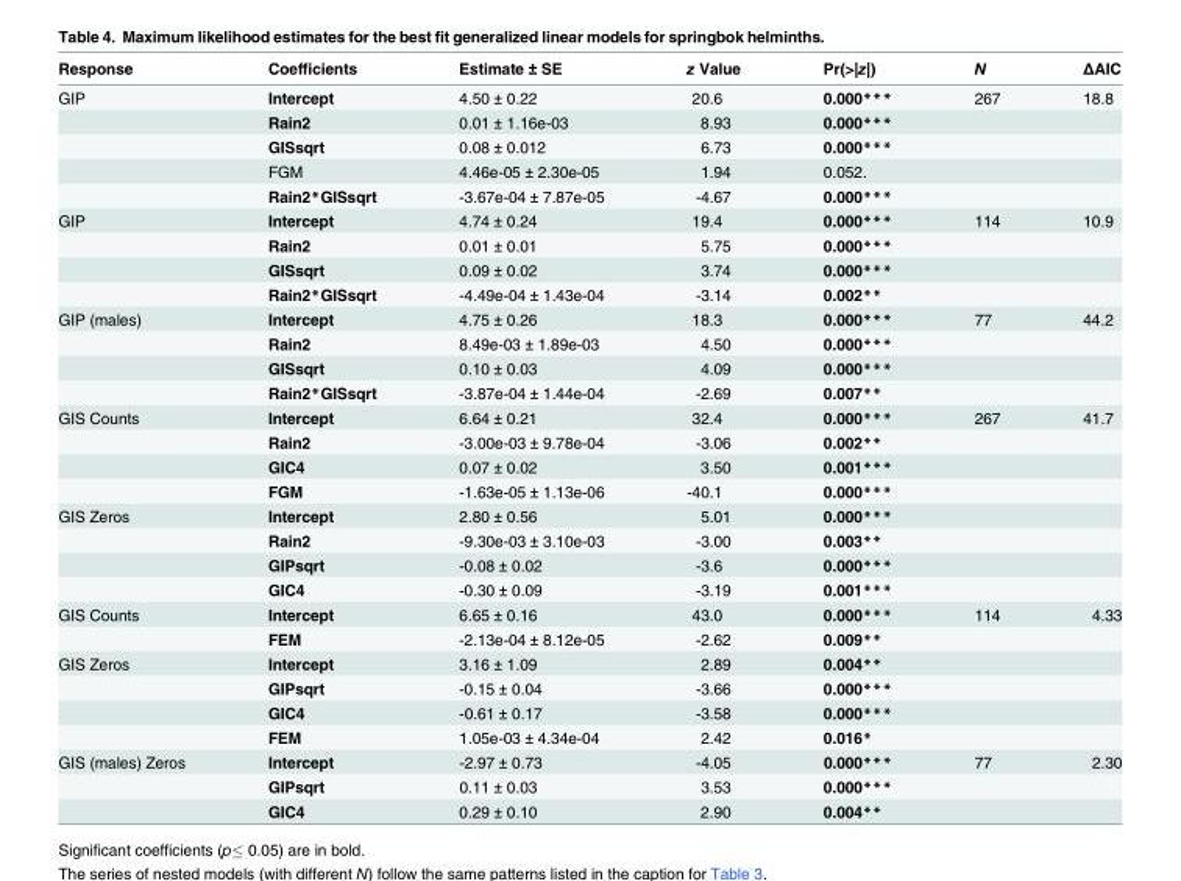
<table><thead><tr><td>Response</td><td>Coefficients</td><td>Estimate ± SE</td><td>z Value</td><td>Pr(&gt;|z|)</td><td>N</td><td>ΔAIC</td></tr></thead><tbody><tr><td rowspan="5">GIP</td><td>Intercept</td><td>4.50 ± 0.22</td><td>20.6</td><td>0.000***</td><td>267</td><td>18.8</td></tr><tr><td>Rain2</td><td>0.01 ± 1.16e-03</td><td>8.93</td><td>0.000***</td><td></td><td></td></tr><tr><td>GISsqrt</td><td>0.08 ± 0.012</td><td>6.73</td><td>0.000***</td><td></td><td></td></tr><tr><td>FGM</td><td>4.46e-05 ± 2.30e-05</td><td>1.94</td><td>0.052.</td><td></td><td></td></tr><tr><td>Rain2*GISsqrt</td><td>-3.67e-04 ± 7.87e-05</td><td>-4.67</td><td>0.000***</td><td></td><td></td></tr><tr><td rowspan="4">GIP</td><td>Intercept</td><td>4.74 ± 0.24</td><td>19.4</td><td>0.000***</td><td>114</td><td>10.9</td></tr><tr><td>Rain2</td><td>0.01 ± 0.01</td><td>5.75</td><td>0.000***</td><td></td><td></td></tr><tr><td>GISsqrt</td><td>0.09 ± 0.02</td><td>3.74</td><td>0.000***</td><td></td><td></td></tr><tr><td>Rain2*GISsqrt</td><td>-4.49e-04 ± 1.43e-04</td><td>-3.14</td><td>0.002**</td><td></td><td></td></tr><tr><td rowspan="4">GIP (males)</td><td>Intercept</td><td>4.75 ± 0.26</td><td>18.3</td><td>0.000***</td><td>77</td><td>44.2</td></tr><tr><td>Rain2</td><td>8.49e-03 ± 1.89e-03</td><td>4.50</td><td>0.000***</td><td></td><td></td></tr><tr><td>GISsqrt</td><td>0.10 ± 0.03</td><td>4.09</td><td>0.000***</td><td></td><td></td></tr><tr><td>Rain2*GISsqrt</td><td>-3.87e-04 ± 1.44e-04</td><td>-2.69</td><td>0.007**</td><td></td><td></td></tr><tr><td rowspan="4">GIS Counts</td><td>Intercept</td><td>6.64 ± 0.21</td><td>32.4</td><td>0.000***</td><td>267</td><td>41.7</td></tr><tr><td>Rain2</td><td>-3.00e-03 ± 9.78e-04</td><td>-3.06</td><td>0.002**</td><td></td><td></td></tr><tr><td>GIC4</td><td>0.07 ± 0.02</td><td>3.50</td><td>0.001***</td><td></td><td></td></tr><tr><td>FGM</td><td>-1.63e-05 ± 1.13e-06</td><td>-40.1</td><td>0.000***</td><td></td><td></td></tr><tr><td rowspan="4">GIS Zeros</td><td>Intercept</td><td>2.80 ± 0.56</td><td>5.01</td><td>0.000***</td><td></td><td></td></tr><tr><td>Rain2</td><td>-9.30e-03 ± 3.10e-03</td><td>-3.00</td><td>0.003**</td><td></td><td></td></tr><tr><td>GIPsqrt</td><td>-0.08 ± 0.02</td><td>-3.6</td><td>0.000***</td><td></td><td></td></tr><tr><td>GIC4</td><td>-0.30 ± 0.09</td><td>-3.19</td><td>0.001***</td><td></td><td></td></tr><tr><td rowspan="2">GIS Counts</td><td>Intercept</td><td>6.65 ± 0.16</td><td>43.0</td><td>0.000***</td><td>114</td><td>4.33</td></tr><tr><td>FEM</td><td>-2.13e-04 ± 8.12e-05</td><td>-2.62</td><td>0.009**</td><td></td><td></td></tr><tr><td rowspan="4">GIS Zeros</td><td>Intercept</td><td>3.16 ± 1.09</td><td>2.89</td><td>0.004**</td><td></td><td></td></tr><tr><td>GIPsqrt</td><td>-0.15 ± 0.04</td><td>-3.66</td><td>0.000***</td><td></td><td></td></tr><tr><td>GIC4</td><td>-0.61 ± 0.17</td><td>-3.58</td><td>0.000***</td><td></td><td></td></tr><tr><td>FEM</td><td>1.05e-03 ± 4.34e-04</td><td>2.42</td><td>0.016*</td><td></td><td></td></tr><tr><td rowspan="3">GIS (males) Zeros</td><td>Intercept</td><td>-2.97 ± 0.73</td><td>-4.05</td><td>0.000***</td><td>77</td><td>2.30</td></tr><tr><td>GIPsqrt</td><td>0.11 ± 0.03</td><td>3.53</td><td>0.000***</td><td></td><td></td></tr><tr><td>GIC4</td><td>0.29 ± 0.10</td><td>2.90</td><td>0.004**</td><td></td><td></td></tr></tbody></table>